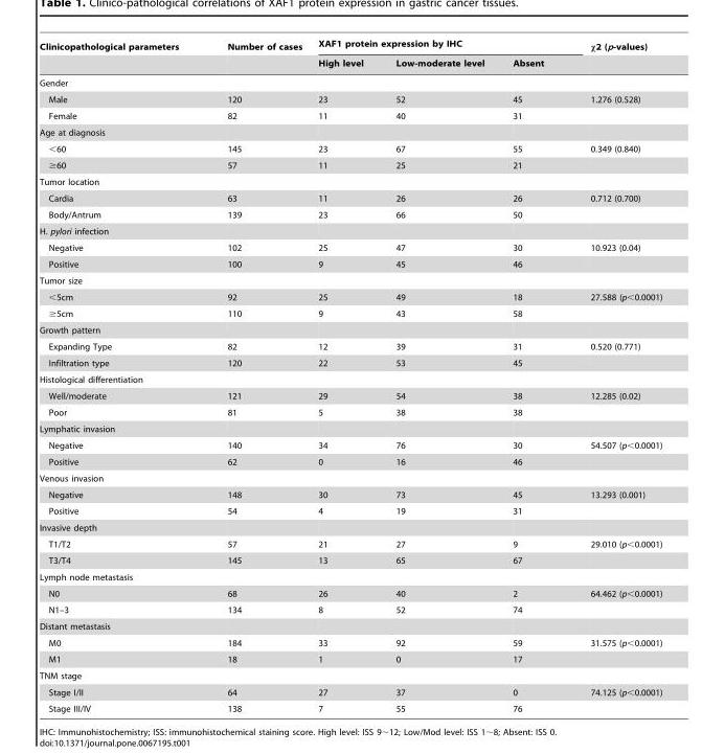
<table><thead><tr><td rowspan="2">Clinicopathological parameters</td><td rowspan="2">Number of cases</td><td colspan="3">XAF1 protein expression by IHC</td><td rowspan="2">x2 (p-values)</td></tr><tr><td>High level</td><td>Low-moderate level</td><td>Absent</td></tr></thead><tbody><tr><td colspan="6">Gender</td></tr><tr><td>Male</td><td>120</td><td>23</td><td>52</td><td>45</td><td>1.276 (0.528)</td></tr><tr><td>Female</td><td>82</td><td>11</td><td>40</td><td>31</td><td></td></tr><tr><td colspan="6">Age at diagnosis</td></tr><tr><td>&lt;60</td><td>145</td><td>23</td><td>67</td><td>55</td><td>0.349 (0.840)</td></tr><tr><td>≥60</td><td>57</td><td>11</td><td>25</td><td>21</td><td></td></tr><tr><td colspan="6">Tumor location</td></tr><tr><td>Cardia</td><td>63</td><td>11</td><td>26</td><td>26</td><td>0.712 (0.700)</td></tr><tr><td>Body/Antrum</td><td>139</td><td>23</td><td>66</td><td>50</td><td></td></tr><tr><td colspan="6">H. pylori infection</td></tr><tr><td>Negative</td><td>102</td><td>25</td><td>47</td><td>30</td><td>10.923 (0.04)</td></tr><tr><td>Positive</td><td>100</td><td>9</td><td>45</td><td>46</td><td></td></tr><tr><td colspan="6">Tumor size</td></tr><tr><td>&lt;5cm</td><td>92</td><td>25</td><td>49</td><td>18</td><td>27.588 (p&lt;0.0001)</td></tr><tr><td>≥5cm</td><td>110</td><td>9</td><td>43</td><td>58</td><td></td></tr><tr><td colspan="6">Growth pattern</td></tr><tr><td>Expanding Type</td><td>82</td><td>12</td><td>39</td><td>31</td><td>0.520 (0.771)</td></tr><tr><td>Infiltration type</td><td>120</td><td>22</td><td>53</td><td>45</td><td></td></tr><tr><td colspan="6">Histological differentiation</td></tr><tr><td>Well/moderate</td><td>121</td><td>29</td><td>54</td><td>38</td><td>12.285 (0.02)</td></tr><tr><td>Poor</td><td>81</td><td>5</td><td>38</td><td>38</td><td></td></tr><tr><td colspan="6">Lymphatic invasion</td></tr><tr><td>Negative</td><td>140</td><td>34</td><td>76</td><td>30</td><td>54.507 (p&lt;0.0001)</td></tr><tr><td>Positive</td><td>62</td><td>0</td><td>16</td><td>46</td><td></td></tr><tr><td colspan="6">Venous invasion</td></tr><tr><td>Negative</td><td>148</td><td>30</td><td>73</td><td>45</td><td>13.293 (0.001)</td></tr><tr><td>Positive</td><td>54</td><td>4</td><td>19</td><td>31</td><td></td></tr><tr><td colspan="6">Invasive depth</td></tr><tr><td>T1/T2</td><td>57</td><td>21</td><td>27</td><td>9</td><td>29.010 (p&lt;0.0001)</td></tr><tr><td>T3/T4</td><td>145</td><td>13</td><td>65</td><td>67</td><td></td></tr><tr><td colspan="6">Lymph node metastasis</td></tr><tr><td>N0</td><td>68</td><td>26</td><td>40</td><td>2</td><td>64.462 (p&lt;0.0001)</td></tr><tr><td>N1–3</td><td>134</td><td>8</td><td>52</td><td>74</td><td></td></tr><tr><td colspan="6">Distant metastasis</td></tr><tr><td>M0</td><td>184</td><td>33</td><td>92</td><td>59</td><td>31.575 (p&lt;0.0001)</td></tr><tr><td>M1</td><td>18</td><td>1</td><td>0</td><td>17</td><td></td></tr><tr><td colspan="6">TNM stage</td></tr><tr><td>Stage I/II</td><td>64</td><td>27</td><td>37</td><td>0</td><td>74.125 (p&lt;0.0001)</td></tr><tr><td>Stage III/IV</td><td>138</td><td>7</td><td>55</td><td>76</td><td></td></tr></tbody></table>